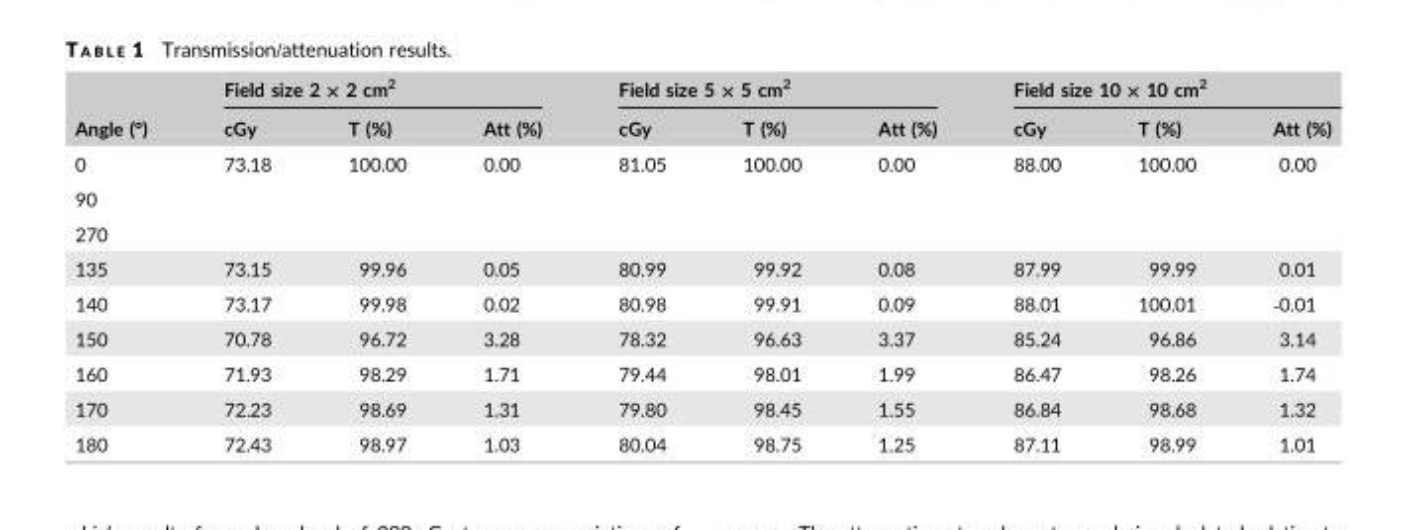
<table><thead><tr><td rowspan="2">Angle (°)</td><td colspan="3">Field size 2 × 2 cm<sup>2</sup></td><td colspan="3">Field size 5 × 5 cm<sup>2</sup></td><td colspan="3">Field size 10 × 10 cm<sup>2</sup></td></tr><tr><td>cGy</td><td>T (%)</td><td>Att (%)</td><td>cGy</td><td>T (%)</td><td>Att (%)</td><td>cGy</td><td>T (%)</td><td>Att (%)</td></tr></thead><tbody><tr><td>0</td><td rowspan="3">73.18</td><td rowspan="3">100.00</td><td rowspan="3">0.00</td><td rowspan="3">81.05</td><td rowspan="3">100.00</td><td rowspan="3">0.00</td><td rowspan="3">88.00</td><td rowspan="3">100.00</td><td rowspan="3">0.00</td></tr><tr><td>90</td></tr><tr><td>270</td></tr><tr><td>135</td><td>73.15</td><td>99.96</td><td>0.05</td><td>80.99</td><td>99.92</td><td>0.08</td><td>87.99</td><td>99.99</td><td>0.01</td></tr><tr><td>140</td><td>73.17</td><td>99.98</td><td>0.02</td><td>80.98</td><td>99.91</td><td>0.09</td><td>88.01</td><td>100.01</td><td>‐0.01</td></tr><tr><td>150</td><td>70.78</td><td>96.72</td><td>3.28</td><td>78.32</td><td>96.63</td><td>3.37</td><td>85.24</td><td>96.86</td><td>3.14</td></tr><tr><td>160</td><td>71.93</td><td>98.29</td><td>1.71</td><td>79.44</td><td>98.01</td><td>1.99</td><td>86.47</td><td>98.26</td><td>1.74</td></tr><tr><td>170</td><td>72.23</td><td>98.69</td><td>1.31</td><td>79.80</td><td>98.45</td><td>1.55</td><td>86.84</td><td>98.68</td><td>1.32</td></tr><tr><td>180</td><td>72.43</td><td>98.97</td><td>1.03</td><td>80.04</td><td>98.75</td><td>1.25</td><td>87.11</td><td>98.99</td><td>1.01</td></tr></tbody></table>